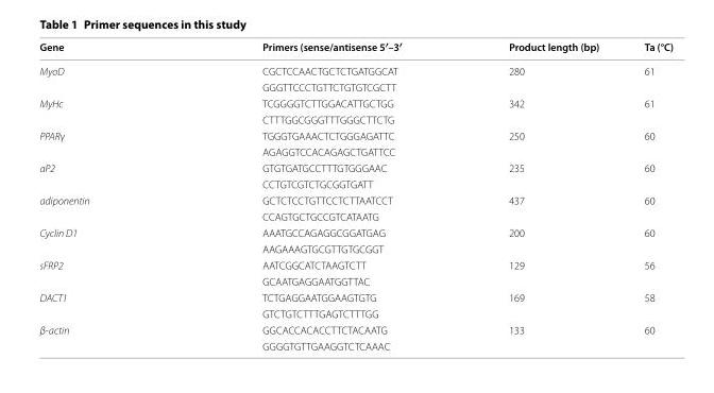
<table><thead><tr><td>Gene</td><td>Primers (sense/antisense 5′–3′</td><td>Product length (bp)</td><td>Ta (°C)</td></tr></thead><tbody><tr><td rowspan="2">MyoD</td><td>CGCTCCAACTGCTCTGATGGCAT</td><td rowspan="2">280</td><td rowspan="2">61</td></tr><tr><td>GGGTTCCCTGTTCTGTGTCGCTT</td></tr><tr><td rowspan="2">MyHc</td><td>TCGGGGTCTTGGACATTGCTGG</td><td rowspan="2">342</td><td rowspan="2">61</td></tr><tr><td>CTTTGGCGGGTTTGGGCTTCTG</td></tr><tr><td rowspan="2">PPARγ</td><td>TGGGTGAAACTCTGGGAGATTC</td><td rowspan="2">250</td><td rowspan="2">60</td></tr><tr><td>AGAGGTCCACAGAGCTGATTCC</td></tr><tr><td rowspan="2">aP2</td><td>GTGTGATGCCTTTGTGGGAAC</td><td rowspan="2">235</td><td rowspan="2">60</td></tr><tr><td>CCTGTCGTCTGCGGTGATT</td></tr><tr><td rowspan="2">adiponentin</td><td>GCTCTCCTGTTCCTCTTAATCCT</td><td rowspan="2">437</td><td rowspan="2">60</td></tr><tr><td>CCAGTGCTGCCGTCATAATG</td></tr><tr><td rowspan="2">Cyclin D1</td><td>AAATGCCAGAGGCGGATGAG</td><td rowspan="2">200</td><td rowspan="2">60</td></tr><tr><td>AAGAAAGTGCGTTGTGCGGT</td></tr><tr><td rowspan="2">sFRP2</td><td>AATCGGCATCTAAGTCTT</td><td rowspan="2">129</td><td rowspan="2">56</td></tr><tr><td>GCAATGAGGAATGGTTAC</td></tr><tr><td rowspan="2">DACT1</td><td>TCTGAGGAATGGAAGTGTG</td><td rowspan="2">169</td><td rowspan="2">58</td></tr><tr><td>GTCTGTCTTTGAGTCTTTGG</td></tr><tr><td rowspan="2">β-actin</td><td>GGCACCACACCTTCTACAATG</td><td rowspan="2">133</td><td rowspan="2">60</td></tr><tr><td>GGGGTGTTGAAGGTCTCAAAC</td></tr></tbody></table>